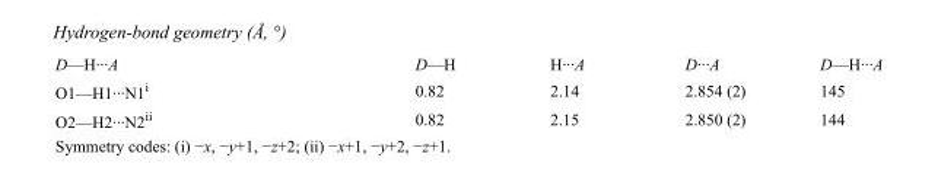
<table><tbody><tr><td>D—H···A</td><td>D—H</td><td>H···A</td><td>D···A</td><td>D—H···A</td></tr><tr><td>O1—H1···N1<sup>i</sup></td><td>0.82</td><td>2.14</td><td>2.854 (2)</td><td>145</td></tr><tr><td>O2—H2···N2<sup>ii</sup></td><td>0.82</td><td>2.15</td><td>2.850 (2)</td><td>144</td></tr></tbody></table>